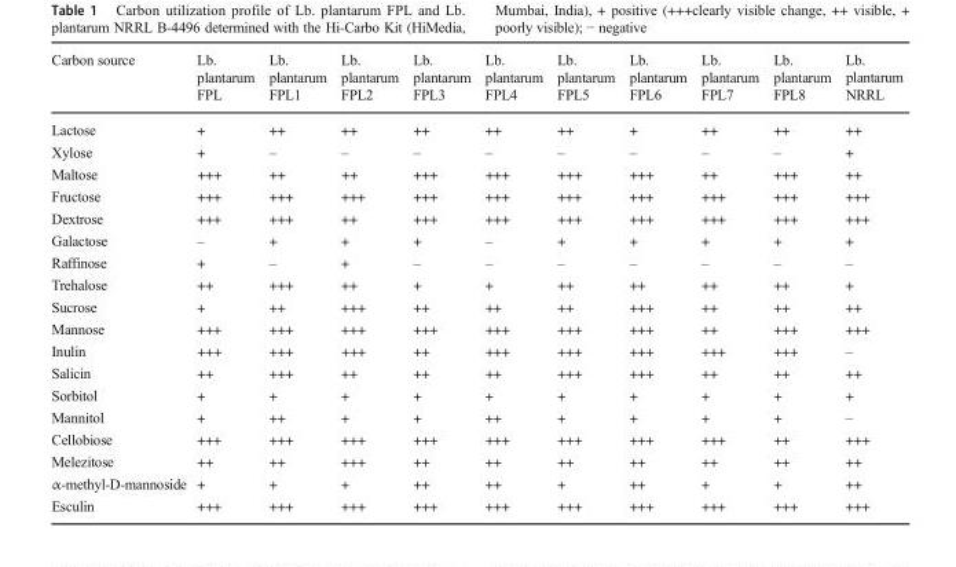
<table><thead><tr><td>Carbon source</td><td>Lb. plantarum FPL</td><td>Lb. plantarum FPL1</td><td>Lb. plantarum FPL2</td><td>Lb. plantarum FPL3</td><td>Lb. plantarum FPL4</td><td>Lb. plantarum FPL5</td><td>Lb. plantarum FPL6</td><td>Lb. plantarum FPL7</td><td>Lb. plantarum FPL8</td><td>Lb. plantarum NRRL</td></tr></thead><tbody><tr><td>Lactose</td><td>+</td><td>++</td><td>++</td><td>++</td><td>++</td><td>++</td><td>+</td><td>++</td><td>++</td><td>++</td></tr><tr><td>Xylose</td><td>+</td><td>–</td><td>–</td><td>–</td><td>–</td><td>–</td><td>–</td><td>–</td><td>–</td><td>+</td></tr><tr><td>Maltose</td><td>+++</td><td>++</td><td>++</td><td>+++</td><td>+++</td><td>+++</td><td>+++</td><td>++</td><td>+++</td><td>++</td></tr><tr><td>Fructose</td><td>+++</td><td>+++</td><td>+++</td><td>+++</td><td>+++</td><td>+++</td><td>+++</td><td>+++</td><td>+++</td><td>+++</td></tr><tr><td>Dextrose</td><td>+++</td><td>+++</td><td>++</td><td>+++</td><td>+++</td><td>+++</td><td>+++</td><td>+++</td><td>+++</td><td>+++</td></tr><tr><td>Galactose</td><td>–</td><td>+</td><td>+</td><td>+</td><td>–</td><td>+</td><td>+</td><td>+</td><td>+</td><td>+</td></tr><tr><td>Raffinose</td><td>+</td><td>–</td><td>+</td><td>–</td><td>–</td><td>–</td><td>–</td><td>–</td><td>–</td><td>–</td></tr><tr><td>Trehalose</td><td>++</td><td>+++</td><td>++</td><td>+</td><td>+</td><td>++</td><td>++</td><td>++</td><td>++</td><td>+</td></tr><tr><td>Sucrose</td><td>+</td><td>++</td><td>+++</td><td>++</td><td>++</td><td>++</td><td>+++</td><td>++</td><td>++</td><td>++</td></tr><tr><td>Mannose</td><td>+++</td><td>+++</td><td>+++</td><td>+++</td><td>+++</td><td>+++</td><td>+++</td><td>++</td><td>+++</td><td>+++</td></tr><tr><td>Inulin</td><td>+++</td><td>+++</td><td>+++</td><td>++</td><td>+++</td><td>+++</td><td>+++</td><td>+++</td><td>+++</td><td>–</td></tr><tr><td>Salicin</td><td>++</td><td>+++</td><td>++</td><td>++</td><td>++</td><td>+++</td><td>+++</td><td>++</td><td>++</td><td>++</td></tr><tr><td>Sorbitol</td><td>+</td><td>+</td><td>+</td><td>+</td><td>+</td><td>+</td><td>+</td><td>+</td><td>+</td><td>+</td></tr><tr><td>Mannitol</td><td>+</td><td>++</td><td>+</td><td>+</td><td>++</td><td>+</td><td>+</td><td>+</td><td>+</td><td>–</td></tr><tr><td>Cellobiose</td><td>+++</td><td>+++</td><td>+++</td><td>+++</td><td>+++</td><td>+++</td><td>+++</td><td>+++</td><td>++</td><td>+++</td></tr><tr><td>Melezitose</td><td>++</td><td>++</td><td>+++</td><td>++</td><td>++</td><td>++</td><td>++</td><td>++</td><td>++</td><td>++</td></tr><tr><td>α-methyl-D-mannoside</td><td>+</td><td>+</td><td>+</td><td>++</td><td>++</td><td>+</td><td>++</td><td>+</td><td>+</td><td>++</td></tr><tr><td>Esculin</td><td>+++</td><td>+++</td><td>+++</td><td>+++</td><td>+++</td><td>+++</td><td>+++</td><td>+++</td><td>+++</td><td>+++</td></tr></tbody></table>